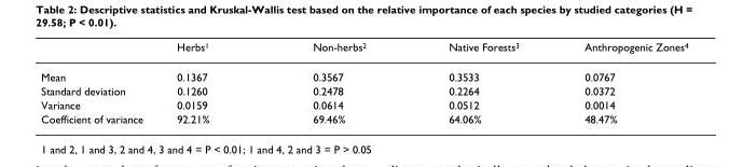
<table><thead><tr><td></td><td>Herbs<sup>1</sup></td><td>Non-herbs<sup>2</sup></td><td>Native Forests<sup>3</sup></td><td>Anthropogenic Zones<sup>4</sup></td></tr></thead><tbody><tr><td>Mean</td><td>0.1367</td><td>0.3567</td><td>0.3533</td><td>0.0767</td></tr><tr><td>Standard deviation</td><td>0.1260</td><td>0.2478</td><td>0.2264</td><td>0.0372</td></tr><tr><td>Variance</td><td>0.0159</td><td>0.0614</td><td>0.0512</td><td>0.0014</td></tr><tr><td>Coefficient of variance</td><td>92.21%</td><td>69.46%</td><td>64.06%</td><td>48.47%</td></tr></tbody></table>